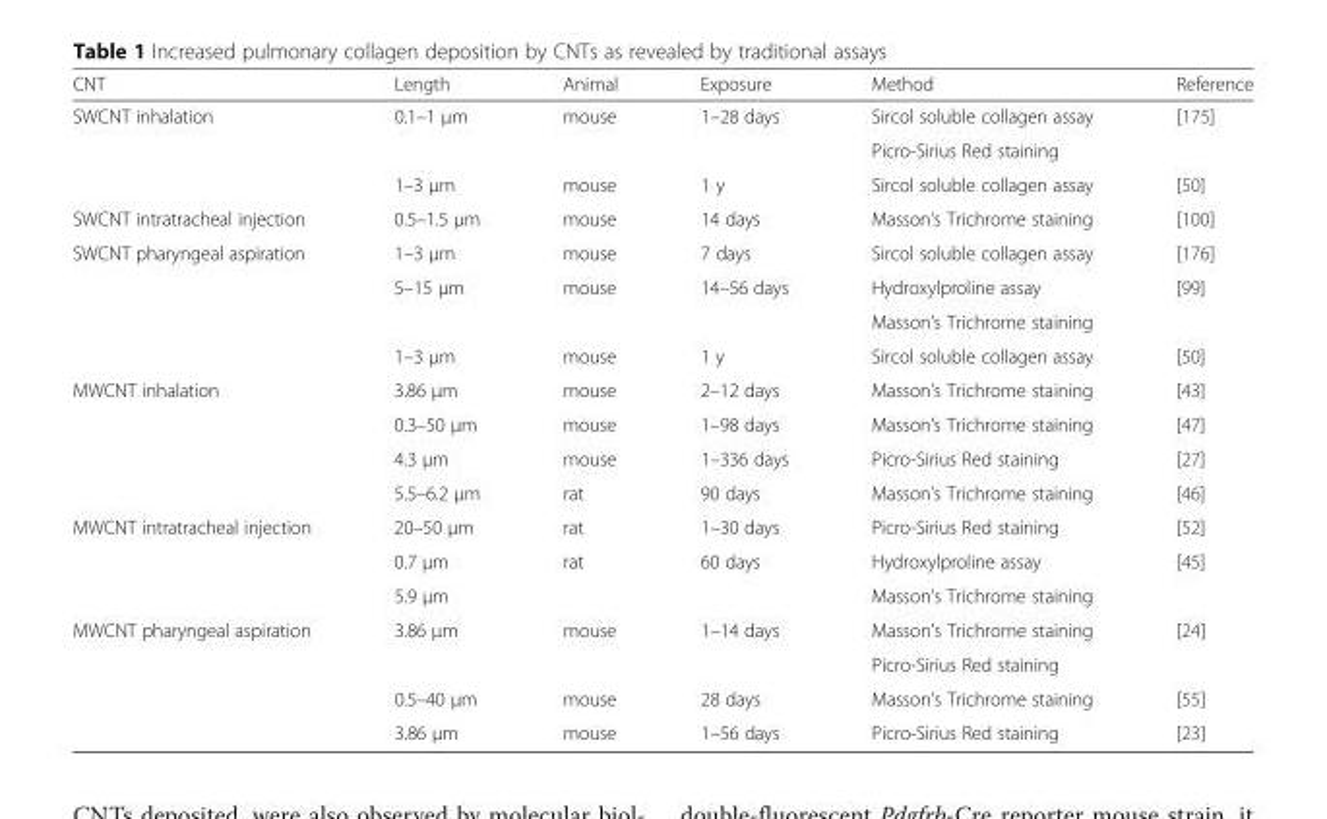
<table><thead><tr><td>CNT</td><td>Length</td><td>Animal</td><td>Exposure</td><td>Method</td><td>Reference</td></tr></thead><tbody><tr><td rowspan="3">SWCNT inhalation</td><td>0.1–1 μm</td><td>mouse</td><td>1–28 days</td><td>Sircol soluble collagen assay</td><td>[175]</td></tr><tr><td></td><td></td><td></td><td>Picro-Sirius Red staining</td><td></td></tr><tr><td>1–3 μm</td><td>mouse</td><td>1 y</td><td>Sircol soluble collagen assay</td><td>[50]</td></tr><tr><td>SWCNT intratracheal injection</td><td>0.5–1.5 μm</td><td>mouse</td><td>14 days</td><td>Masson’s Trichrome staining</td><td>[100]</td></tr><tr><td rowspan="4">SWCNT pharyngeal aspiration</td><td>1–3 μm</td><td>mouse</td><td>7 days</td><td>Sircol soluble collagen assay</td><td>[176]</td></tr><tr><td>5–15 μm</td><td>mouse</td><td>14–56 days</td><td>Hydroxylproline assay</td><td>[99]</td></tr><tr><td></td><td></td><td></td><td>Masson’s Trichrome staining</td><td></td></tr><tr><td>1–3 μm</td><td>mouse</td><td>1 y</td><td>Sircol soluble collagen assay</td><td>[50]</td></tr><tr><td rowspan="4">MWCNT inhalation</td><td>3.86 μm</td><td>mouse</td><td>2–12 days</td><td>Masson’s Trichrome staining</td><td>[43]</td></tr><tr><td>0.3–50 μm</td><td>mouse</td><td>1–98 days</td><td>Masson’s Trichrome staining</td><td>[47]</td></tr><tr><td>4.3 μm</td><td>mouse</td><td>1–336 days</td><td>Picro-Sirius Red staining</td><td>[27]</td></tr><tr><td>5.5–6.2 μm</td><td>rat</td><td>90 days</td><td>Masson’s Trichrome staining</td><td>[46]</td></tr><tr><td rowspan="3">MWCNT intratracheal injection</td><td>20–50 μm</td><td>rat</td><td>1–30 days</td><td>Picro-Sirius Red staining</td><td>[52]</td></tr><tr><td>0.7 μm</td><td>rat</td><td>60 days</td><td>Hydroxylproline assay</td><td>[45]</td></tr><tr><td>5.9 μm</td><td></td><td></td><td>Masson’s Trichrome staining</td><td></td></tr><tr><td rowspan="4">MWCNT pharyngeal aspiration</td><td>3.86 μm</td><td>mouse</td><td>1–14 days</td><td>Masson’s Trichrome staining</td><td>[24]</td></tr><tr><td></td><td></td><td></td><td>Picro-Sirius Red staining</td><td></td></tr><tr><td>0.5–40 μm</td><td>mouse</td><td>28 days</td><td>Masson’s Trichrome staining</td><td>[55]</td></tr><tr><td>3.86 μm</td><td>mouse</td><td>1–56 days</td><td>Picro-Sirius Red staining</td><td>[23]</td></tr></tbody></table>